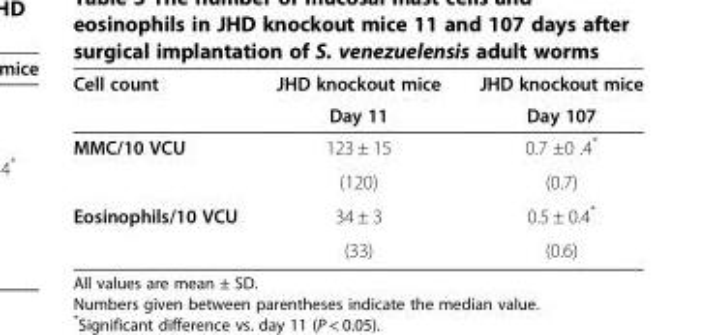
<table><thead><tr><td rowspan="2">Cell count</td><td rowspan="2">JHD knockout mice Day 11</td><td rowspan="2">JHD knockout mice Day 107</td></tr><tr></tr></thead><tbody><tr><td rowspan="2">MMC/10 VCU</td><td>123 ± 15</td><td>0.7 ±0 .4*</td></tr><tr><td>(120)</td><td>(0.7)</td></tr><tr><td rowspan="2">Eosinophils/10 VCU</td><td>34 ± 3</td><td>0.5 ± 0.4*</td></tr><tr><td>(33)</td><td>(0.6)</td></tr></tbody></table>